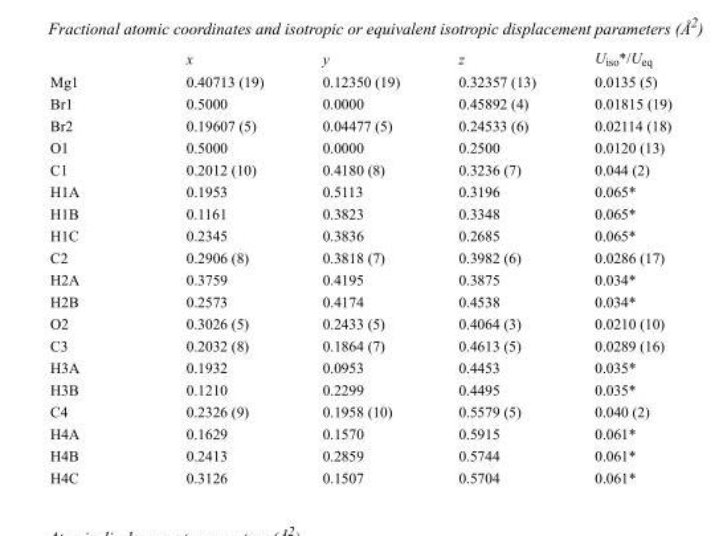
<table><thead><tr><td></td><td>x</td><td>y</td><td>z</td><td>U<sub>iso</sub>*/U<sub>eq</sub></td></tr></thead><tbody><tr><td>Mg1</td><td>0.40713 (19)</td><td>0.12350 (19)</td><td>0.32357 (13)</td><td>0.0135 (5)</td></tr><tr><td>Br1</td><td>0.5000</td><td>0.0000</td><td>0.45892 (4)</td><td>0.01815 (19)</td></tr><tr><td>Br2</td><td>0.19607 (5)</td><td>0.04477 (5)</td><td>0.24533 (6)</td><td>0.02114 (18)</td></tr><tr><td>O1</td><td>0.5000</td><td>0.0000</td><td>0.2500</td><td>0.0120 (13)</td></tr><tr><td>C1</td><td>0.2012 (10)</td><td>0.4180 (8)</td><td>0.3236 (7)</td><td>0.044 (2)</td></tr><tr><td>H1A</td><td>0.1953</td><td>0.5113</td><td>0.3196</td><td>0.065*</td></tr><tr><td>H1B</td><td>0.1161</td><td>0.3823</td><td>0.3348</td><td>0.065*</td></tr><tr><td>H1C</td><td>0.2345</td><td>0.3836</td><td>0.2685</td><td>0.065*</td></tr><tr><td>C2</td><td>0.2906 (8)</td><td>0.3818 (7)</td><td>0.3982 (6)</td><td>0.0286 (17)</td></tr><tr><td>H2A</td><td>0.3759</td><td>0.4195</td><td>0.3875</td><td>0.034*</td></tr><tr><td>H2B</td><td>0.2573</td><td>0.4174</td><td>0.4538</td><td>0.034*</td></tr><tr><td>O2</td><td>0.3026 (5)</td><td>0.2433 (5)</td><td>0.4064 (3)</td><td>0.0210 (10)</td></tr><tr><td>C3</td><td>0.2032 (8)</td><td>0.1864 (7)</td><td>0.4613 (5)</td><td>0.0289 (16)</td></tr><tr><td>H3A</td><td>0.1932</td><td>0.0953</td><td>0.4453</td><td>0.035*</td></tr><tr><td>H3B</td><td>0.1210</td><td>0.2299</td><td>0.4495</td><td>0.035*</td></tr><tr><td>C4</td><td>0.2326 (9)</td><td>0.1958 (10)</td><td>0.5579 (5)</td><td>0.040 (2)</td></tr><tr><td>H4A</td><td>0.1629</td><td>0.1570</td><td>0.5915</td><td>0.061*</td></tr><tr><td>H4B</td><td>0.2413</td><td>0.2859</td><td>0.5744</td><td>0.061*</td></tr><tr><td>H4C</td><td>0.3126</td><td>0.1507</td><td>0.5704</td><td>0.061*</td></tr></tbody></table>